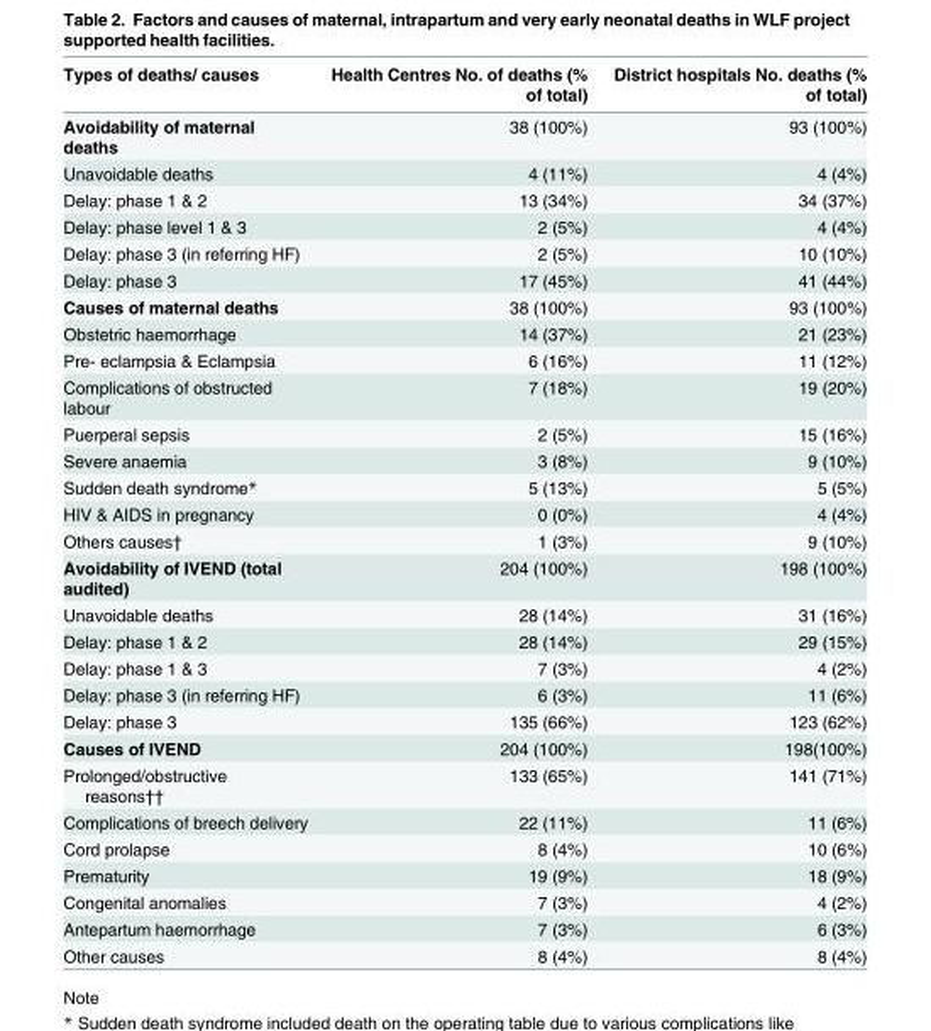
<table><thead><tr><td>Types of deaths/ causes</td><td>Health Centres No. of deaths (% of total)</td><td>District hospitals No. deaths (% of total)</td></tr></thead><tbody><tr><td>Avoidability of maternal deaths</td><td>38 (100%)</td><td>93 (100%)</td></tr><tr><td>Unavoidable deaths</td><td>4 (11%)</td><td>4 (4%)</td></tr><tr><td>Delay: phase 1 &amp; 2</td><td>13 (34%)</td><td>34 (37%)</td></tr><tr><td>Delay: phase level 1 &amp; 3</td><td>2 (5%)</td><td>4 (4%)</td></tr><tr><td>Delay: phase 3 (in referring HF)</td><td>2 (5%)</td><td>10 (10%)</td></tr><tr><td>Delay: phase 3</td><td>17 (45%)</td><td>41 (44%)</td></tr><tr><td>Causes of maternal deaths</td><td>38 (100%)</td><td>93 (100%)</td></tr><tr><td>Obstetric haemorrhage</td><td>14 (37%)</td><td>21 (23%)</td></tr><tr><td>Pre- eclampsia &amp; Eclampsia</td><td>6 (16%)</td><td>11 (12%)</td></tr><tr><td>Complications of obstructed labour</td><td>7 (18%)</td><td>19 (20%)</td></tr><tr><td>Puerperal sepsis</td><td>2 (5%)</td><td>15 (16%)</td></tr><tr><td>Severe anaemia</td><td>3 (8%)</td><td>9 (10%)</td></tr><tr><td>Sudden death syndrome*</td><td>5 (13%)</td><td>5 (5%)</td></tr><tr><td>HIV &amp; AIDS in pregnancy</td><td>0 (0%)</td><td>4 (4%)</td></tr><tr><td>Others causes†</td><td>1 (3%)</td><td>9 (10%)</td></tr><tr><td>Avoidability of IVEND (total audited)</td><td>204 (100%)</td><td>198 (100%)</td></tr><tr><td>Unavoidable deaths</td><td>28 (14%)</td><td>31 (16%)</td></tr><tr><td>Delay: phase 1 &amp; 2</td><td>28 (14%)</td><td>29 (15%)</td></tr><tr><td>Delay: phase 1 &amp; 3</td><td>7 (3%)</td><td>4 (2%)</td></tr><tr><td>Delay: phase 3 (in referring HF)</td><td>6 (3%)</td><td>11 (6%)</td></tr><tr><td>Delay: phase 3</td><td>135 (66%)</td><td>123 (62%)</td></tr><tr><td>Causes of IVEND</td><td>204 (100%)</td><td>198(100%)</td></tr><tr><td>Prolonged/obstructive reasons††</td><td>133 (65%)</td><td>141 (71%)</td></tr><tr><td>Complications of breech delivery</td><td>22 (11%)</td><td>11 (6%)</td></tr><tr><td>Cord prolapse</td><td>8 (4%)</td><td>10 (6%)</td></tr><tr><td>Prematurity</td><td>19 (9%)</td><td>18 (9%)</td></tr><tr><td>Congenital anomalies</td><td>7 (3%)</td><td>4 (2%)</td></tr><tr><td>Antepartum haemorrhage</td><td>7 (3%)</td><td>6 (3%)</td></tr><tr><td>Other causes</td><td>8 (4%)</td><td>8 (4%)</td></tr></tbody></table>